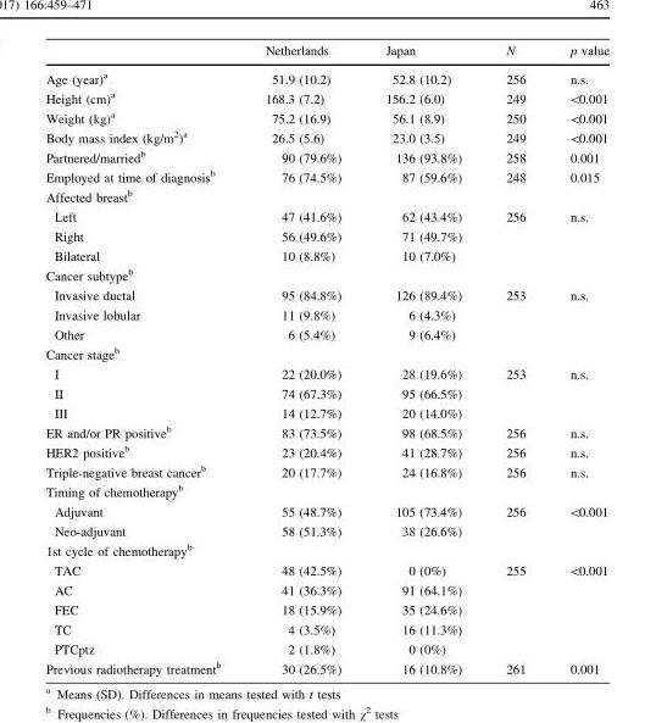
<table><thead><tr><td></td><td>Netherlands</td><td>Japan</td><td>N</td><td>p value</td></tr></thead><tbody><tr><td>Age (year)<sup>a</sup></td><td>51.9 (10.2)</td><td>52.8 (10.2)</td><td>256</td><td>n.s.</td></tr><tr><td>Height (cm)<sup>a</sup></td><td>168.3 (7.2)</td><td>156.2 (6.0)</td><td>249</td><td>&lt;0.001</td></tr><tr><td>Weight (kg)<sup>a</sup></td><td>75.2 (16.9)</td><td>56.1 (8.9)</td><td>250</td><td>&lt;0.001</td></tr><tr><td>Body mass index (kg/m<sup>2</sup>)<sup>a</sup></td><td>26.5 (5.6)</td><td>23.0 (3.5)</td><td>249</td><td>&lt;0.001</td></tr><tr><td>Partnered/married<sup>b</sup></td><td>90 (79.6%)</td><td>136 (93.8%)</td><td>258</td><td>0.001</td></tr><tr><td>Employed at time of diagnosis<sup>b</sup></td><td>76 (74.5%)</td><td>87 (59.6%)</td><td>248</td><td>0.015</td></tr><tr><td colspan="5">Affected breast<sup>b</sup></td></tr><tr><td>Left</td><td>47 (41.6%)</td><td>62 (43.4%)</td><td rowspan="3">256</td><td rowspan="3">n.s.</td></tr><tr><td>Right</td><td>56 (49.6%)</td><td>71 (49.7%)</td></tr><tr><td>Bilateral</td><td>10 (8.8%)</td><td>10 (7.0%)</td></tr><tr><td colspan="5">Cancer subtype<sup>b</sup></td></tr><tr><td>Invasive ductal</td><td>95 (84.8%)</td><td>126 (89.4%)</td><td rowspan="3">253</td><td rowspan="3">n.s.</td></tr><tr><td>Invasive lobular</td><td>11 (9.8%)</td><td>6 (4.3%)</td></tr><tr><td>Other</td><td>6 (5.4%)</td><td>9 (6.4%)</td></tr><tr><td colspan="5">Cancer stage<sup>b</sup></td></tr><tr><td>I</td><td>22 (20.0%)</td><td>28 (19.6%)</td><td rowspan="3">253</td><td rowspan="3">n.s.</td></tr><tr><td>II</td><td>74 (67.3%)</td><td>95 (66.5%)</td></tr><tr><td>III</td><td>14 (12.7%)</td><td>20 (14.0%)</td></tr><tr><td>ER and/or PR positive<sup>b</sup></td><td>83 (73.5%)</td><td>98 (68.5%)</td><td>256</td><td>n.s.</td></tr><tr><td>HER2 positive<sup>b</sup></td><td>23 (20.4%)</td><td>41 (28.7%)</td><td>256</td><td>n.s.</td></tr><tr><td>Triple-negative breast cancer<sup>b</sup></td><td>20 (17.7%)</td><td>24 (16.8%)</td><td>256</td><td>n.s.</td></tr><tr><td colspan="5">Timing of chemotherapy<sup>b</sup></td></tr><tr><td>Adjuvant</td><td>55 (48.7%)</td><td>105 (73.4%)</td><td rowspan="2">256</td><td rowspan="2">&lt;0.001</td></tr><tr><td>Neo-adjuvant</td><td>58 (51.3%)</td><td>38 (26.6%)</td></tr><tr><td colspan="5">1st cycle of chemotherapy<sup>b</sup></td></tr><tr><td>TAC</td><td>48 (42.5%)</td><td>0 (0%)</td><td rowspan="5">255</td><td rowspan="5">&lt;0.001</td></tr><tr><td>AC</td><td>41 (36.3%)</td><td>91 (64.1%)</td></tr><tr><td>FEC</td><td>18 (15.9%)</td><td>35 (24.6%)</td></tr><tr><td>TC</td><td>4 (3.5%)</td><td>16 (11.3%)</td></tr><tr><td>PTCptz</td><td>2 (1.8%)</td><td>0 (0%)</td></tr><tr><td>Previous radiotherapy treatment<sup>b</sup></td><td>30 (26.5%)</td><td>16 (10.8%)</td><td>261</td><td>0.001</td></tr></tbody></table>